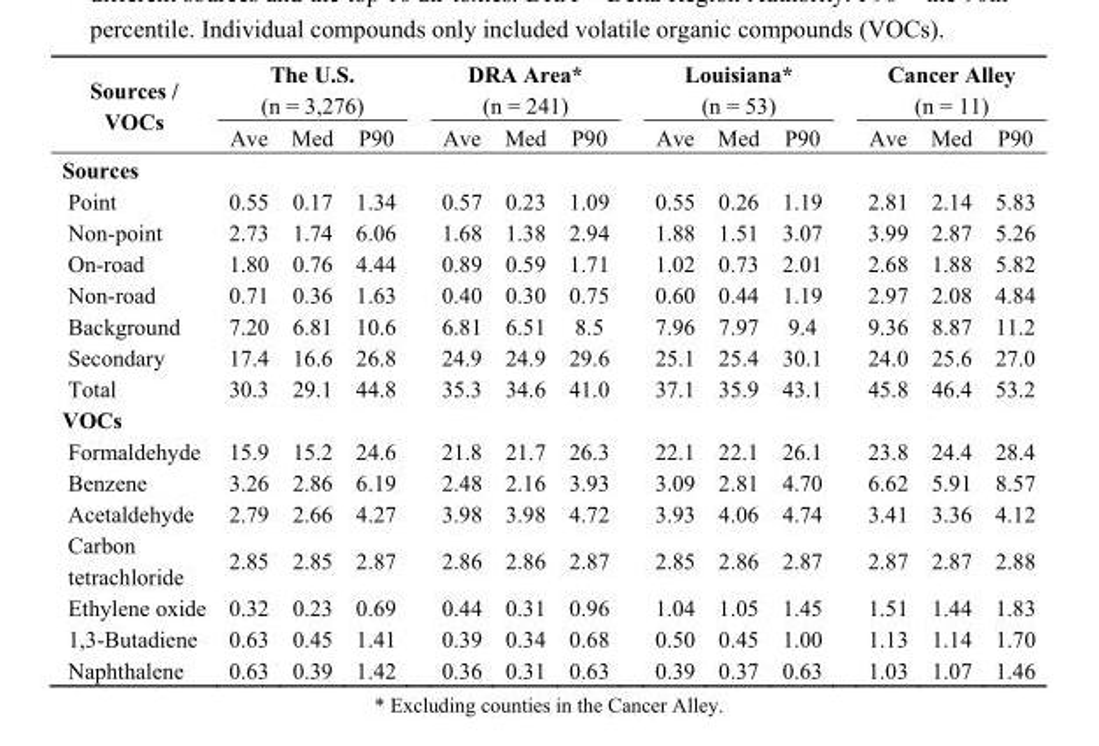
<table><thead><tr><td rowspan="3">Sources / VOCs</td><td rowspan="2" colspan="3">The U.S. (n = 3,276)</td><td rowspan="2" colspan="3">DRA Area* (n = 241)</td><td rowspan="2" colspan="3">Louisiana* (n = 53)</td><td rowspan="2" colspan="3">Cancer Alley (n = 11)</td></tr><tr></tr><tr><td>Ave</td><td>Med</td><td>P90</td><td>Ave</td><td>Med</td><td>P90</td><td>Ave</td><td>Med</td><td>P90</td><td>Ave</td><td>Med</td><td>P90</td></tr></thead><tbody><tr><td colspan="13">Sources</td></tr><tr><td>Point</td><td>0.55</td><td>0.17</td><td>1.34</td><td>0.57</td><td>0.23</td><td>1.09</td><td>0.55</td><td>0.26</td><td>1.19</td><td>2.81</td><td>2.14</td><td>5.83</td></tr><tr><td>Non-point</td><td>2.73</td><td>1.74</td><td>6.06</td><td>1.68</td><td>1.38</td><td>2.94</td><td>1.88</td><td>1.51</td><td>3.07</td><td>3.99</td><td>2.87</td><td>5.26</td></tr><tr><td>On-road</td><td>1.80</td><td>0.76</td><td>4.44</td><td>0.89</td><td>0.59</td><td>1.71</td><td>1.02</td><td>0.73</td><td>2.01</td><td>2.68</td><td>1.88</td><td>5.82</td></tr><tr><td>Non-road</td><td>0.71</td><td>0.36</td><td>1.63</td><td>0.40</td><td>0.30</td><td>0.75</td><td>0.60</td><td>0.44</td><td>1.19</td><td>2.97</td><td>2.08</td><td>4.84</td></tr><tr><td>Background</td><td>7.20</td><td>6.81</td><td>10.6</td><td>6.81</td><td>6.51</td><td>8.5</td><td>7.96</td><td>7.97</td><td>9.4</td><td>9.36</td><td>8.87</td><td>11.2</td></tr><tr><td>Secondary</td><td>17.4</td><td>16.6</td><td>26.8</td><td>24.9</td><td>24.9</td><td>29.6</td><td>25.1</td><td>25.4</td><td>30.1</td><td>24.0</td><td>25.6</td><td>27.0</td></tr><tr><td>Total</td><td>30.3</td><td>29.1</td><td>44.8</td><td>35.3</td><td>34.6</td><td>41.0</td><td>37.1</td><td>35.9</td><td>43.1</td><td>45.8</td><td>46.4</td><td>53.2</td></tr><tr><td colspan="13">VOCs</td></tr><tr><td>Formaldehyde</td><td>15.9</td><td>15.2</td><td>24.6</td><td>21.8</td><td>21.7</td><td>26.3</td><td>22.1</td><td>22.1</td><td>26.1</td><td>23.8</td><td>24.4</td><td>28.4</td></tr><tr><td>Benzene</td><td>3.26</td><td>2.86</td><td>6.19</td><td>2.48</td><td>2.16</td><td>3.93</td><td>3.09</td><td>2.81</td><td>4.70</td><td>6.62</td><td>5.91</td><td>8.57</td></tr><tr><td>Acetaldehyde</td><td>2.79</td><td>2.66</td><td>4.27</td><td>3.98</td><td>3.98</td><td>4.72</td><td>3.93</td><td>4.06</td><td>4.74</td><td>3.41</td><td>3.36</td><td>4.12</td></tr><tr><td>Carbon tetrachloride</td><td>2.85</td><td>2.85</td><td>2.87</td><td>2.86</td><td>2.86</td><td>2.87</td><td>2.85</td><td>2.86</td><td>2.87</td><td>2.87</td><td>2.87</td><td>2.88</td></tr><tr><td>Ethylene oxide</td><td>0.32</td><td>0.23</td><td>0.69</td><td>0.44</td><td>0.31</td><td>0.96</td><td>1.04</td><td>1.05</td><td>1.45</td><td>1.51</td><td>1.44</td><td>1.83</td></tr><tr><td>1,3-Butadiene</td><td>0.63</td><td>0.45</td><td>1.41</td><td>0.39</td><td>0.34</td><td>0.68</td><td>0.50</td><td>0.45</td><td>1.00</td><td>1.13</td><td>1.14</td><td>1.70</td></tr><tr><td>Naphthalene</td><td>0.63</td><td>0.39</td><td>1.42</td><td>0.36</td><td>0.31</td><td>0.63</td><td>0.39</td><td>0.37</td><td>0.63</td><td>1.03</td><td>1.07</td><td>1.46</td></tr></tbody></table>